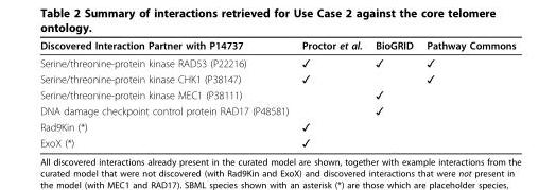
<table><thead><tr><td>Discovered Interaction Partner with P14737</td><td>Proctor et al.</td><td>BioGRID</td><td>Pathway Commons</td></tr></thead><tbody><tr><td>Serine/threonine-protein kinase RAD53 (P22216)</td><td>✓</td><td>✓</td><td>✓</td></tr><tr><td>Serine/threonine-protein kinase CHK1 (P38147)</td><td>✓</td><td></td><td>✓</td></tr><tr><td>Serine/threonine-protein kinase MEC1 (P38111)</td><td></td><td>✓</td><td></td></tr><tr><td>DNA damage checkpoint control protein RAD17 (P48581)</td><td></td><td>✓</td><td></td></tr><tr><td>Rad9Kin (*)</td><td>✓</td><td></td><td></td></tr><tr><td>ExoX (*)</td><td>✓</td><td></td><td></td></tr></tbody></table>